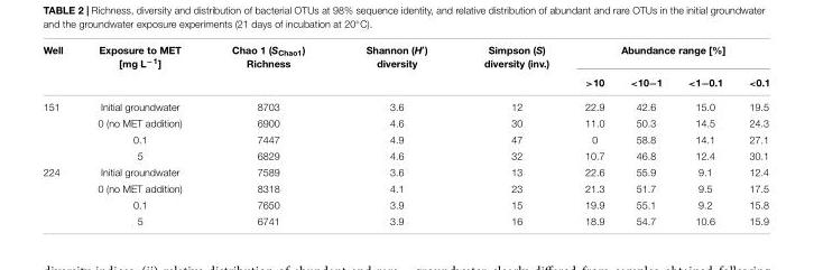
<table><thead><tr><td rowspan="2">Well</td><td rowspan="2">Exposure to MET [mg L<sup>−1</sup>]</td><td rowspan="2">Chao 1 (S<sub>Chao1</sub>) Richness</td><td rowspan="2">Shannon (H′) diversity</td><td rowspan="2">Simpson (S) diversity (inv.)</td><td colspan="4">Abundance range [%]</td></tr><tr><td>&gt;10</td><td>&lt;10−1</td><td>&lt;1−0.1</td><td>&lt;0.1</td></tr></thead><tbody><tr><td rowspan="4">151</td><td>Initial groundwater</td><td>8703</td><td>3.6</td><td>12</td><td>22.9</td><td>42.6</td><td>15.0</td><td>19.5</td></tr><tr><td>0 (no MET addition)</td><td>6900</td><td>4.6</td><td>30</td><td>11.0</td><td>50.3</td><td>14.5</td><td>24.3</td></tr><tr><td>0.1</td><td>7447</td><td>4.9</td><td>47</td><td>0</td><td>58.8</td><td>14.1</td><td>27.1</td></tr><tr><td>5</td><td>6829</td><td>4.6</td><td>32</td><td>10.7</td><td>46.8</td><td>12.4</td><td>30.1</td></tr><tr><td rowspan="4">224</td><td>Initial groundwater</td><td>7589</td><td>3.6</td><td>13</td><td>22.6</td><td>55.9</td><td>9.1</td><td>12.4</td></tr><tr><td>0 (no MET addition)</td><td>8318</td><td>4.1</td><td>23</td><td>21.3</td><td>51.7</td><td>9.5</td><td>17.5</td></tr><tr><td>0.1</td><td>7650</td><td>3.9</td><td>15</td><td>19.9</td><td>55.1</td><td>9.2</td><td>15.8</td></tr><tr><td>5</td><td>6741</td><td>3.9</td><td>16</td><td>18.9</td><td>54.7</td><td>10.6</td><td>15.9</td></tr></tbody></table>